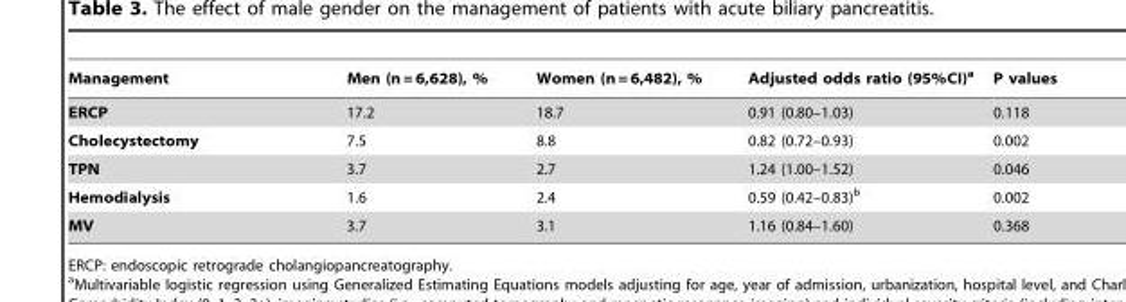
<table><thead><tr><td>Management</td><td>Men (n = 6,628), %</td><td>Women (n = 6,482), %</td><td>Adjusted odds ratio (95%CI)<sup>a</sup></td><td>P values</td></tr></thead><tbody><tr><td>ERCP</td><td>17.2</td><td>18.7</td><td>0.91 (0.80–1.03)</td><td>0.118</td></tr><tr><td>Cholecystectomy</td><td>7.5</td><td>8.8</td><td>0.82 (0.72–0.93)</td><td>0.002</td></tr><tr><td>TPN</td><td>3.7</td><td>2.7</td><td>1.24 (1.00–1.52)</td><td>0.046</td></tr><tr><td>Hemodialysis</td><td>1.6</td><td>2.4</td><td>0.59 (0.42–0.83)<sup>b</sup></td><td>0.002</td></tr><tr><td>MV</td><td>3.7</td><td>3.1</td><td>1.16 (0.84–1.60)</td><td>0.368</td></tr></tbody></table>